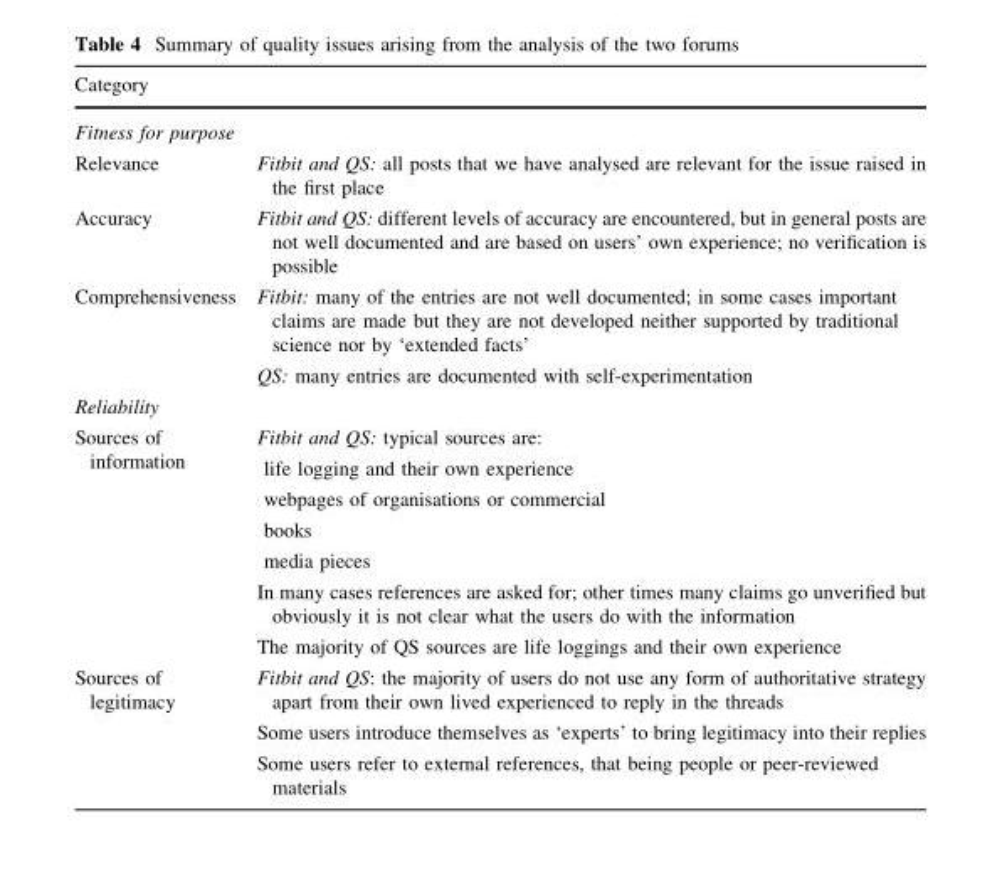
<table><thead><tr><td rowspan="2" colspan="2">Category Fitness for purpose</td></tr><tr></tr><tr><td>Relevance</td><td>Fitbit and QS: all posts that we have analysed are relevant for the issue raised in the first place</td></tr></thead><tbody><tr><td>Accuracy</td><td>Fitbit and QS: different levels of accuracy are encountered, but in general posts are not well documented and are based on users’ own experience; no verification is possible</td></tr><tr><td>Comprehensiveness</td><td>Fitbit: many of the entries are not well documented; in some cases important claims are made but they are not developed neither supported by traditional science nor by ‘extended facts’ QS: many entries are documented with self-experimentation</td></tr><tr><td colspan="2">Reliability</td></tr><tr><td>Sources of information</td><td>Fitbit and QS: typical sources are: life logging and their own experience webpages of organisations or commercial books media pieces In many cases references are asked for; other times many claims go unverified but obviously it is not clear what the users do with the information The majority of QS sources are life loggings and their own experience</td></tr><tr><td>Sources of legitimacy</td><td>Fitbit and QS: the majority of users do not use any form of authoritative strategy apart from their own lived experienced to reply in the threads Some users introduce themselves as ‘experts’ to bring legitimacy into their replies Some users refer to external references, that being people or peer-reviewed materials</td></tr></tbody></table>